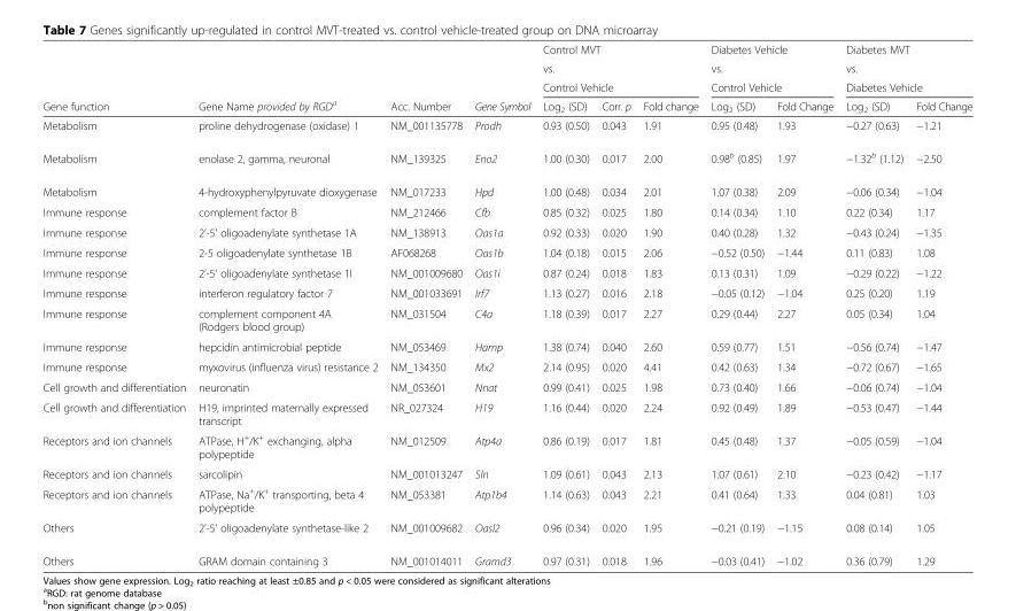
<table><thead><tr><td rowspan="4">Gene function</td><td rowspan="4">Gene Name provided by RGD<sup>a</sup></td><td rowspan="4">Acc. Number</td><td rowspan="4">Gene Symbol</td><td rowspan="3" colspan="3">Control MVT vs. Control Vehicle</td><td rowspan="3" colspan="2">Diabetes Vehicle vs. Control Vehicle</td><td rowspan="3" colspan="2">Diabetes MVT vs. Diabetes Vehicle</td></tr><tr></tr><tr></tr><tr><td>Log<sub>2</sub> (SD)</td><td>Corr. p</td><td>Fold change</td><td>Log<sub>2</sub> (SD)</td><td>Fold Change</td><td>Log<sub>2</sub> (SD)</td><td>Fold Change</td></tr></thead><tbody><tr><td>Metabolism</td><td>proline dehydrogenase (oxidase) 1</td><td>NM_001135778</td><td>Prodh</td><td>0.93 (0.50)</td><td>0.043</td><td>1.91</td><td>0.95 (0.48)</td><td>1.93</td><td>−0.27 (0.63)</td><td>−1.21</td></tr><tr><td>Metabolism</td><td>enolase 2, gamma, neuronal</td><td>NM_139325</td><td>Eno2</td><td>1.00 (0.30)</td><td>0.017</td><td>2.00</td><td>0.98<sup>b</sup> (0.85)</td><td>1.97</td><td>−1.32<sup>b</sup> (1.12)</td><td>−2.50</td></tr><tr><td>Metabolism</td><td>4-hydroxyphenylpyruvate dioxygenase</td><td>NM_017233</td><td>Hpd</td><td>1.00 (0.48)</td><td>0.034</td><td>2.01</td><td>1.07 (0.38)</td><td>2.09</td><td>−0.06 (0.34)</td><td>−1.04</td></tr><tr><td>Immune response</td><td>complement factor B</td><td>NM_212466</td><td>Cfb</td><td>0.85 (0.32)</td><td>0.025</td><td>1.80</td><td>0.14 (0.34)</td><td>1.10</td><td>0.22 (0.34)</td><td>1.17</td></tr><tr><td>Immune response</td><td>2’-5’ oligoadenylate synthetase 1A</td><td>NM_138913</td><td>Oas1a</td><td>0.92 (0.33)</td><td>0.020</td><td>1.90</td><td>0.40 (0.28)</td><td>1.32</td><td>−0.43 (0.24)</td><td>−1.35</td></tr><tr><td>Immune response</td><td>2-5 oligoadenylate synthetase 1B</td><td>AF068268</td><td>Oas1b</td><td>1.04 (0.18)</td><td>0.015</td><td>2.06</td><td>−0.52 (0.50)</td><td>−1.44</td><td>0.11 (0.83)</td><td>1.08</td></tr><tr><td>Immune response</td><td>2’-5’ oligoadenylate synthetase 1I</td><td>NM_001009680</td><td>Oas1i</td><td>0.87 (0.24)</td><td>0.018</td><td>1.83</td><td>0.13 (0.31)</td><td>1.09</td><td>−0.29 (0.22)</td><td>−1.22</td></tr><tr><td>Immune response</td><td>interferon regulatory factor 7</td><td>NM_001033691</td><td>Irf7</td><td>1.13 (0.27)</td><td>0.016</td><td>2.18</td><td>−0.05 (0.12)</td><td>−1.04</td><td>0.25 (0.20)</td><td>1.19</td></tr><tr><td>Immune response</td><td>complement component 4A (Rodgers blood group)</td><td>NM_031504</td><td>C4a</td><td>1.18 (0.39)</td><td>0.017</td><td>2.27</td><td>0.29 (0.44)</td><td>2.27</td><td>0.05 (0.34)</td><td>1.04</td></tr><tr><td>Immune response</td><td>hepcidin antimicrobial peptide</td><td>NM_053469</td><td>Hamp</td><td>1.38 (0.74)</td><td>0.040</td><td>2.60</td><td>0.59 (0.77)</td><td>1.51</td><td>−0.56 (0.74)</td><td>−1.47</td></tr><tr><td>Immune response</td><td>myxovirus (influenza virus) resistance 2</td><td>NM_134350</td><td>Mx2</td><td>2.14 (0.95)</td><td>0.020</td><td>4.41</td><td>0.42 (0.63)</td><td>1.34</td><td>−0.72 (0.67)</td><td>−1.65</td></tr><tr><td>Cell growth and differentiation</td><td>neuronatin</td><td>NM_053601</td><td>Nnat</td><td>0.99 (0.41)</td><td>0.025</td><td>1.98</td><td>0.73 (0.40)</td><td>1.66</td><td>−0.06 (0.74)</td><td>−1.04</td></tr><tr><td>Cell growth and differentiation</td><td>H19, imprinted maternally expressed transcript</td><td>NR_027324</td><td>H19</td><td>1.16 (0.44)</td><td>0.020</td><td>2.24</td><td>0.92 (0.49)</td><td>1.89</td><td>−0.53 (0.47)</td><td>−1.44</td></tr><tr><td>Receptors and ion channels</td><td>ATPase, H<sup>+</sup>/K<sup>+</sup> exchanging, alpha polypeptide</td><td>NM_012509</td><td>Atp4a</td><td>0.86 (0.19)</td><td>0.017</td><td>1.81</td><td>0.45 (0.48)</td><td>1.37</td><td>−0.05 (0.59)</td><td>−1.04</td></tr><tr><td>Receptors and ion channels</td><td>sarcolipin</td><td>NM_001013247</td><td>Sln</td><td>1.09 (0.61)</td><td>0.043</td><td>2.13</td><td>1.07 (0.61)</td><td>2.10</td><td>−0.23 (0.42)</td><td>−1.17</td></tr><tr><td>Receptors and ion channels</td><td>ATPase, Na<sup>+</sup>/K<sup>+</sup> transporting, beta 4 polypeptide</td><td>NM_053381</td><td>Atp1b4</td><td>1.14 (0.63)</td><td>0.043</td><td>2.21</td><td>0.41 (0.64)</td><td>1.33</td><td>0.04 (0.81)</td><td>1.03</td></tr><tr><td>Others</td><td>2’-5’ oligoadenylate synthetase-like 2</td><td>NM_001009682</td><td>Oasl2</td><td>0.96 (0.34)</td><td>0.020</td><td>1.95</td><td>−0.21 (0.19)</td><td>−1.15</td><td>0.08 (0.14)</td><td>1.05</td></tr><tr><td>Others</td><td>GRAM domain containing 3</td><td>NM_001014011</td><td>Gramd3</td><td>0.97 (0.31)</td><td>0.018</td><td>1.96</td><td>−0.03 (0.41)</td><td>−1.02</td><td>0.36 (0.79)</td><td>1.29</td></tr></tbody></table>